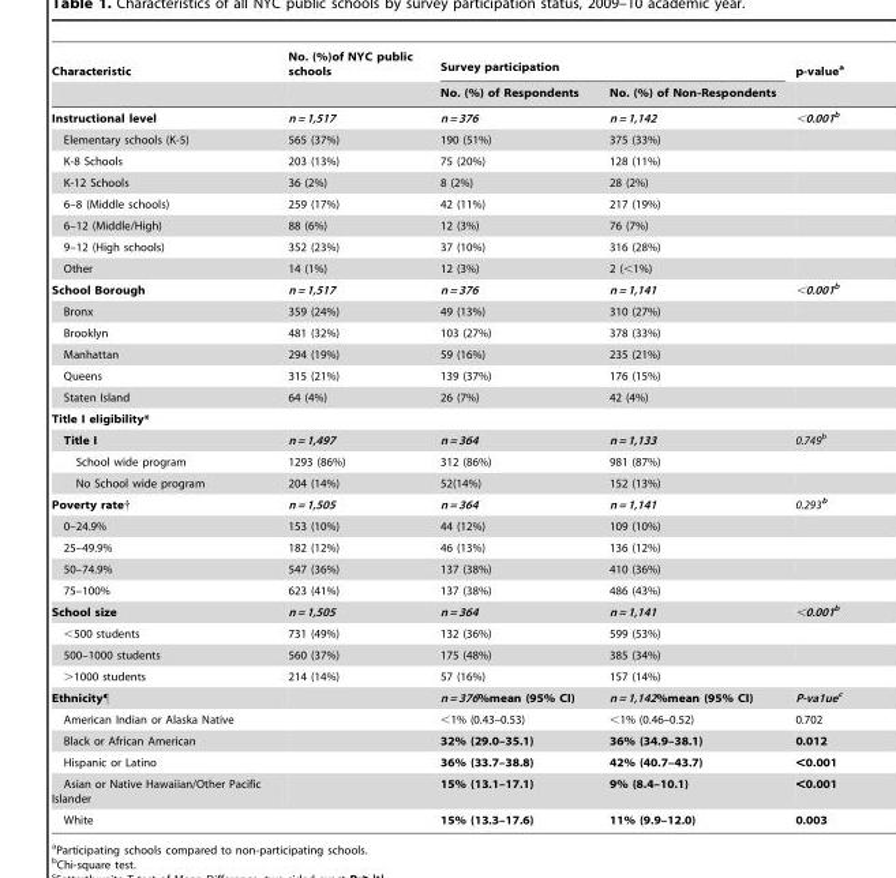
<table><thead><tr><td rowspan="2">Characteristic</td><td rowspan="2">No. (%)of NYC public schools</td><td colspan="2">Survey participation</td><td rowspan="2">p-value<sup>a</sup></td></tr><tr><td>No. (%) of Respondents</td><td>No. (%) of Non-Respondents</td></tr></thead><tbody><tr><td>Instructional level</td><td>n = 1,517</td><td>n = 376</td><td>n = 1,142</td><td>&lt;0.001b</td></tr><tr><td>Elementary schools (K-5)</td><td>565 (37%)</td><td>190 (51%)</td><td>375 (33%)</td><td></td></tr><tr><td>K-8 Schools</td><td>203 (13%)</td><td>75 (20%)</td><td>128 (11%)</td><td></td></tr><tr><td>K-12 Schools</td><td>36 (2%)</td><td>8 (2%)</td><td>28 (2%)</td><td></td></tr><tr><td>6–8 (Middle schools)</td><td>259 (17%)</td><td>42 (11%)</td><td>217 (19%)</td><td></td></tr><tr><td>6–12 (Middle/High)</td><td>88 (6%)</td><td>12 (3%)</td><td>76 (7%)</td><td></td></tr><tr><td>9–12 (High schools)</td><td>352 (23%)</td><td>37 (10%)</td><td>316 (28%)</td><td></td></tr><tr><td>Other</td><td>14 (1%)</td><td>12 (3%)</td><td>2 (&lt;1%)</td><td></td></tr><tr><td>School Borough</td><td>n = 1,517</td><td>n = 376</td><td>n = 1,141</td><td>&lt;0.001b</td></tr><tr><td>Bronx</td><td>359 (24%)</td><td>49 (13%)</td><td>310 (27%)</td><td></td></tr><tr><td>Brooklyn</td><td>481 (32%)</td><td>103 (27%)</td><td>378 (33%)</td><td></td></tr><tr><td>Manhattan</td><td>294 (19%)</td><td>59 (16%)</td><td>235 (21%)</td><td></td></tr><tr><td>Queens</td><td>315 (21%)</td><td>139 (37%)</td><td>176 (15%)</td><td></td></tr><tr><td>Staten Island</td><td>64 (4%)</td><td>26 (7%)</td><td>42 (4%)</td><td></td></tr><tr><td colspan="5">Title I eligibility*</td></tr><tr><td>Title I</td><td>n = 1,497</td><td>n = 364</td><td>n = 1,133</td><td>0.749b</td></tr><tr><td>School wide program</td><td>1293 (86%)</td><td>312 (86%)</td><td>981 (87%)</td><td></td></tr><tr><td>No School wide program</td><td>204 (14%)</td><td>52(14%)</td><td>152 (13%)</td><td></td></tr><tr><td>Poverty rate†</td><td>n = 1,505</td><td>n = 364</td><td>n = 1,141</td><td>0.293b</td></tr><tr><td>0–24.9%</td><td>153 (10%)</td><td>44 (12%)</td><td>109 (10%)</td><td></td></tr><tr><td>25–49.9%</td><td>182 (12%)</td><td>46 (13%)</td><td>136 (12%)</td><td></td></tr><tr><td>50–74.9%</td><td>547 (36%)</td><td>137 (38%)</td><td>410 (36%)</td><td></td></tr><tr><td>75–100%</td><td>623 (41%)</td><td>137 (38%)</td><td>486 (43%)</td><td></td></tr><tr><td>School size</td><td>n = 1,505</td><td>n = 364</td><td>n = 1,141</td><td>&lt;0.001b</td></tr><tr><td>&lt;500 students</td><td>731 (49%)</td><td>132 (36%)</td><td>599 (53%)</td><td></td></tr><tr><td>500–1000 students</td><td>560 (37%)</td><td>175 (48%)</td><td>385 (34%)</td><td></td></tr><tr><td>&gt;1000 students</td><td>214 (14%)</td><td>57 (16%)</td><td>157 (14%)</td><td></td></tr><tr><td>Ethnicity¶</td><td></td><td>n = 376%mean (95% CI)</td><td>n = 1,142%mean (95% CI)</td><td>P-va1uec</td></tr><tr><td>American Indian or Alaska Native</td><td></td><td>&lt;1% (0.43–0.53)</td><td>&lt;1% (0.46–0.52)</td><td>0.702</td></tr><tr><td>Black or African American</td><td></td><td>32% (29.0–35.1)</td><td>36% (34.9–38.1)</td><td>0.012</td></tr><tr><td>Hispanic or Latino</td><td></td><td>36% (33.7–38.8)</td><td>42% (40.7–43.7)</td><td>&lt;0.001</td></tr><tr><td>Asian or Native Hawaiian/Other Pacific Islander</td><td></td><td>15% (13.1–17.1)</td><td>9% (8.4–10.1)</td><td>&lt;0.001</td></tr><tr><td>White</td><td></td><td>15% (13.3–17.6)</td><td>11% (9.9–12.0)</td><td>0.003</td></tr></tbody></table>